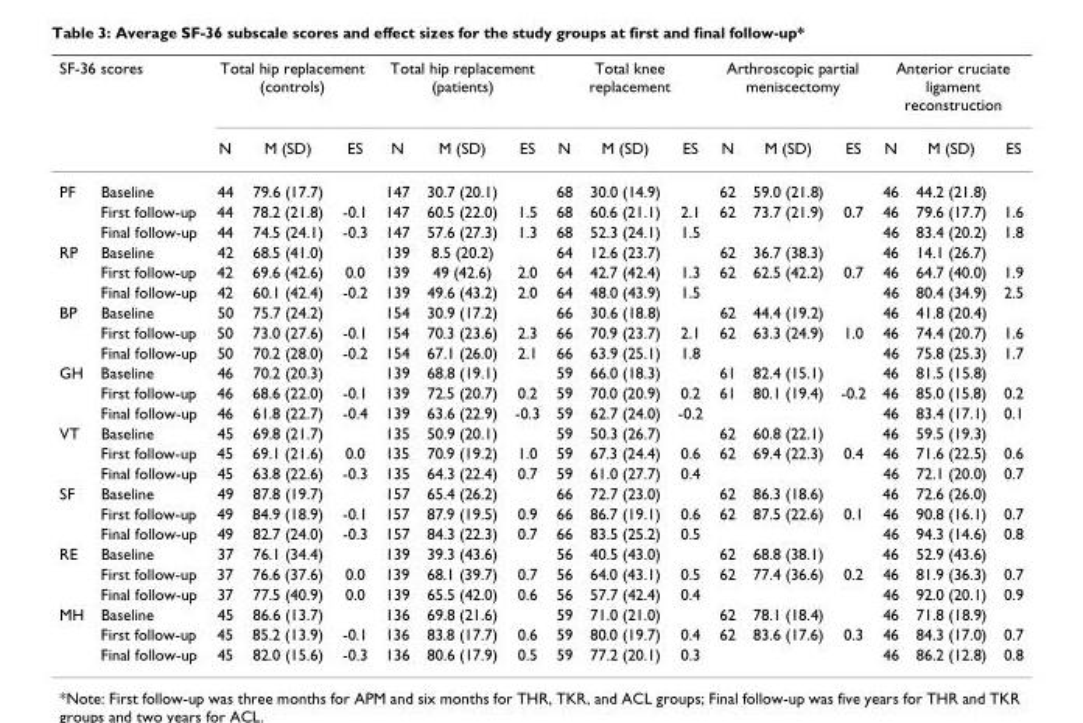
<table><thead><tr><td colspan="2">SF-36 scores</td><td colspan="3">Total hip replacement (controls)</td><td colspan="3">Total hip replacement (patients)</td><td colspan="3">Total knee replacement</td><td colspan="3">Arthroscopic partial meniscectomy</td><td colspan="3">Anterior cruciate ligament reconstruction</td></tr><tr><td></td><td></td><td>N</td><td>M (SD)</td><td>ES</td><td>N</td><td>M (SD)</td><td>ES</td><td>N</td><td>M (SD)</td><td>ES</td><td>N</td><td>M (SD)</td><td>ES</td><td>N</td><td>M (SD)</td><td>ES</td></tr></thead><tbody><tr><td rowspan="3">PF</td><td>Baseline</td><td>44</td><td>79.6 (17.7)</td><td></td><td>147</td><td>30.7 (20.1)</td><td></td><td>68</td><td>30.0 (14.9)</td><td></td><td>62</td><td>59.0 (21.8)</td><td></td><td>46</td><td>44.2 (21.8)</td><td></td></tr><tr><td>First follow-up</td><td>44</td><td>78.2 (21.8)</td><td>-0.1</td><td>147</td><td>60.5 (22.0)</td><td>1.5</td><td>68</td><td>60.6 (21.1)</td><td>2.1</td><td>62</td><td>73.7 (21.9)</td><td>0.7</td><td>46</td><td>79.6 (17.7)</td><td>1.6</td></tr><tr><td>Final follow-up</td><td>44</td><td>74.5 (24.1)</td><td>-0.3</td><td>147</td><td>57.6 (27.3)</td><td>1.3</td><td>68</td><td>52.3 (24.1)</td><td>1.5</td><td></td><td></td><td></td><td>46</td><td>83.4 (20.2)</td><td>1.8</td></tr><tr><td rowspan="3">RP</td><td>Baseline</td><td>42</td><td>68.5 (41.0)</td><td></td><td>139</td><td>8.5 (20.2)</td><td></td><td>64</td><td>12.6 (23.7)</td><td></td><td>62</td><td>36.7 (38.3)</td><td></td><td>46</td><td>14.1 (26.7)</td><td></td></tr><tr><td>First follow-up</td><td>42</td><td>69.6 (42.6)</td><td>0.0</td><td>139</td><td>49 (42.6)</td><td>2.0</td><td>64</td><td>42.7 (42.4)</td><td>1.3</td><td>62</td><td>62.5 (42.2)</td><td>0.7</td><td>46</td><td>64.7 (40.0)</td><td>1.9</td></tr><tr><td>Final follow-up</td><td>42</td><td>60.1 (42.4)</td><td>-0.2</td><td>139</td><td>49.6 (43.2)</td><td>2.0</td><td>64</td><td>48.0 (43.9)</td><td>1.5</td><td></td><td></td><td></td><td>46</td><td>80.4 (34.9)</td><td>2.5</td></tr><tr><td rowspan="3">BP</td><td>Baseline</td><td>50</td><td>75.7 (24.2)</td><td></td><td>154</td><td>30.9 (17.2)</td><td></td><td>66</td><td>30.6 (18.8)</td><td></td><td>62</td><td>44.4 (19.2)</td><td></td><td>46</td><td>41.8 (20.4)</td><td></td></tr><tr><td>First follow-up</td><td>50</td><td>73.0 (27.6)</td><td>-0.1</td><td>154</td><td>70.3 (23.6)</td><td>2.3</td><td>66</td><td>70.9 (23.7)</td><td>2.1</td><td>62</td><td>63.3 (24.9)</td><td>1.0</td><td>46</td><td>74.4 (20.7)</td><td>1.6</td></tr><tr><td>Final follow-up</td><td>50</td><td>70.2 (28.0)</td><td>-0.2</td><td>154</td><td>67.1 (26.0)</td><td>2.1</td><td>66</td><td>63.9 (25.1)</td><td>1.8</td><td></td><td></td><td></td><td>46</td><td>75.8 (25.3)</td><td>1.7</td></tr><tr><td rowspan="3">GH</td><td>Baseline</td><td>46</td><td>70.2 (20.3)</td><td></td><td>139</td><td>68.8 (19.1)</td><td></td><td>59</td><td>66.0 (18.3)</td><td></td><td>61</td><td>82.4 (15.1)</td><td></td><td>46</td><td>81.5 (15.8)</td><td></td></tr><tr><td>First follow-up</td><td>46</td><td>68.6 (22.0)</td><td>-0.1</td><td>139</td><td>72.5 (20.7)</td><td>0.2</td><td>59</td><td>70.0 (20.9)</td><td>0.2</td><td>61</td><td>80.1 (19.4)</td><td>-0.2</td><td>46</td><td>85.0 (15.8)</td><td>0.2</td></tr><tr><td>Final follow-up</td><td>46</td><td>61.8 (22.7)</td><td>-0.4</td><td>139</td><td>63.6 (22.9)</td><td>-0.3</td><td>59</td><td>62.7 (24.0)</td><td>-0.2</td><td></td><td></td><td></td><td>46</td><td>83.4 (17.1)</td><td>0.1</td></tr><tr><td rowspan="3">VT</td><td>Baseline</td><td>45</td><td>69.8 (21.7)</td><td></td><td>135</td><td>50.9 (20.1)</td><td></td><td>59</td><td>50.3 (26.7)</td><td></td><td>62</td><td>60.8 (22.1)</td><td></td><td>46</td><td>59.5 (19.3)</td><td></td></tr><tr><td>First follow-up</td><td>45</td><td>69.1 (21.6)</td><td>0.0</td><td>135</td><td>70.9 (19.2)</td><td>1.0</td><td>59</td><td>67.3 (24.4)</td><td>0.6</td><td>62</td><td>69.4 (22.3)</td><td>0.4</td><td>46</td><td>71.6 (22.5)</td><td>0.6</td></tr><tr><td>Final follow-up</td><td>45</td><td>63.8 (22.6)</td><td>-0.3</td><td>135</td><td>64.3 (22.4)</td><td>0.7</td><td>59</td><td>61.0 (27.7)</td><td>0.4</td><td></td><td></td><td></td><td>46</td><td>72.1 (20.0)</td><td>0.7</td></tr><tr><td rowspan="3">SF</td><td>Baseline</td><td>49</td><td>87.8 (19.7)</td><td></td><td>157</td><td>65.4 (26.2)</td><td></td><td>66</td><td>72.7 (23.0)</td><td></td><td>62</td><td>86.3 (18.6)</td><td></td><td>46</td><td>72.6 (26.0)</td><td></td></tr><tr><td>First follow-up</td><td>49</td><td>84.9 (18.9)</td><td>-0.1</td><td>157</td><td>87.9 (19.5)</td><td>0.9</td><td>66</td><td>86.7 (19.1)</td><td>0.6</td><td>62</td><td>87.5 (22.6)</td><td>0.1</td><td>46</td><td>90.8 (16.1)</td><td>0.7</td></tr><tr><td>Final follow-up</td><td>49</td><td>82.7 (24.0)</td><td>-0.3</td><td>157</td><td>84.3 (22.3)</td><td>0.7</td><td>66</td><td>83.5 (25.2)</td><td>0.5</td><td></td><td></td><td></td><td>46</td><td>94.3 (14.6)</td><td>0.8</td></tr><tr><td rowspan="3">RE</td><td>Baseline</td><td>37</td><td>76.1 (34.4)</td><td></td><td>139</td><td>39.3 (43.6)</td><td></td><td>56</td><td>40.5 (43.0)</td><td></td><td>62</td><td>68.8 (38.1)</td><td></td><td>46</td><td>52.9 (43.6)</td><td></td></tr><tr><td>First follow-up</td><td>37</td><td>76.6 (37.6)</td><td>0.0</td><td>139</td><td>68.1 (39.7)</td><td>0.7</td><td>56</td><td>64.0 (43.1)</td><td>0.5</td><td>62</td><td>77.4 (36.6)</td><td>0.2</td><td>46</td><td>81.9 (36.3)</td><td>0.7</td></tr><tr><td>Final follow-up</td><td>37</td><td>77.5 (40.9)</td><td>0.0</td><td>139</td><td>65.5 (42.0)</td><td>0.6</td><td>56</td><td>57.7 (42.4)</td><td>0.4</td><td></td><td></td><td></td><td>46</td><td>92.0 (20.1)</td><td>0.9</td></tr><tr><td rowspan="3">MH</td><td>Baseline</td><td>45</td><td>86.6 (13.7)</td><td></td><td>136</td><td>69.8 (21.6)</td><td></td><td>59</td><td>71.0 (21.0)</td><td></td><td>62</td><td>78.1 (18.4)</td><td></td><td>46</td><td>71.8 (18.9)</td><td></td></tr><tr><td>First follow-up</td><td>45</td><td>85.2 (13.9)</td><td>-0.1</td><td>136</td><td>83.8 (17.7)</td><td>0.6</td><td>59</td><td>80.0 (19.7)</td><td>0.4</td><td>62</td><td>83.6 (17.6)</td><td>0.3</td><td>46</td><td>84.3 (17.0)</td><td>0.7</td></tr><tr><td>Final follow-up</td><td>45</td><td>82.0 (15.6)</td><td>-0.3</td><td>136</td><td>80.6 (17.9)</td><td>0.5</td><td>59</td><td>77.2 (20.1)</td><td>0.3</td><td></td><td></td><td></td><td>46</td><td>86.2 (12.8)</td><td>0.8</td></tr></tbody></table>